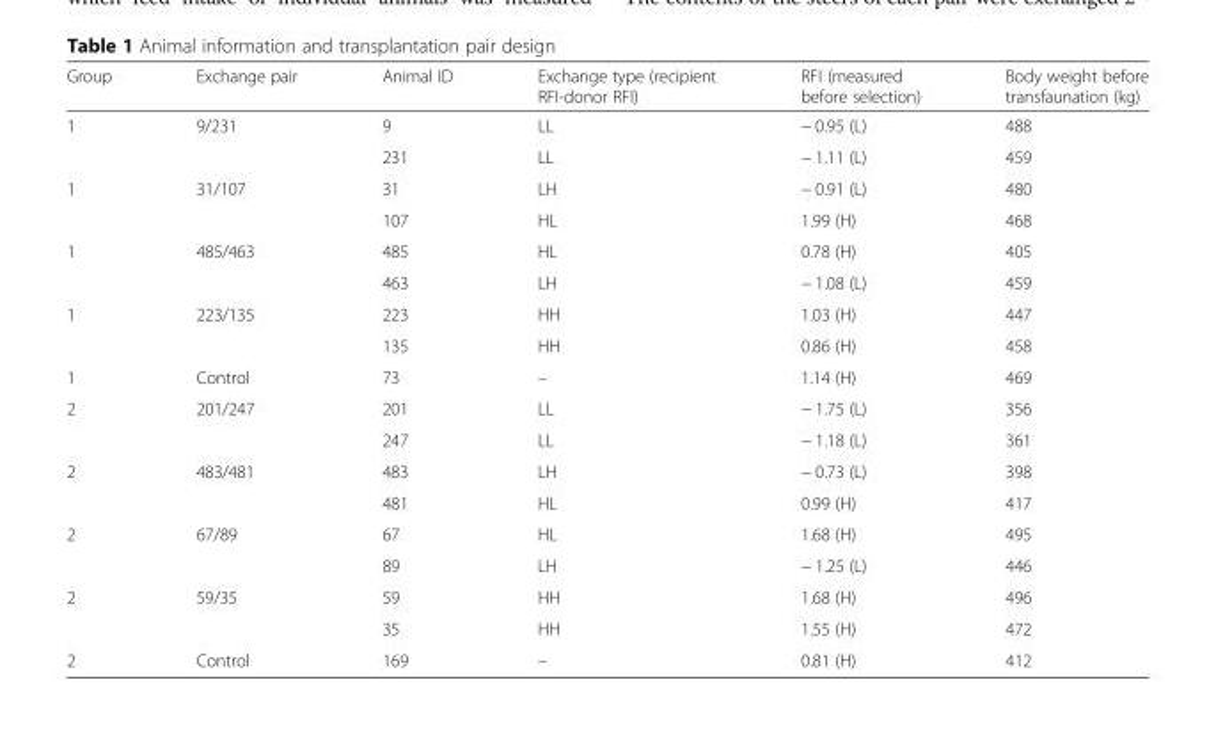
<table><thead><tr><td>Group</td><td>Exchange pair</td><td>Animal ID</td><td>Exchange type (recipient RFI-donor RFI)</td><td>RFI (measured before selection)</td><td>Body weight before transfaunation (kg)</td></tr></thead><tbody><tr><td rowspan="2">1</td><td>9/231</td><td>9</td><td>LL</td><td>− 0.95 (L)</td><td>488</td></tr><tr><td></td><td>231</td><td>LL</td><td>− 1.11 (L)</td><td>459</td></tr><tr><td rowspan="2">1</td><td>31/107</td><td>31</td><td>LH</td><td>− 0.91 (L)</td><td>480</td></tr><tr><td></td><td>107</td><td>HL</td><td>1.99 (H)</td><td>468</td></tr><tr><td rowspan="2">1</td><td>485/463</td><td>485</td><td>HL</td><td>0.78 (H)</td><td>405</td></tr><tr><td></td><td>463</td><td>LH</td><td>− 1.08 (L)</td><td>459</td></tr><tr><td rowspan="2">1</td><td>223/135</td><td>223</td><td>HH</td><td>1.03 (H)</td><td>447</td></tr><tr><td></td><td>135</td><td>HH</td><td>0.86 (H)</td><td>458</td></tr><tr><td>1</td><td>Control</td><td>73</td><td>–</td><td>1.14 (H)</td><td>469</td></tr><tr><td rowspan="2">2</td><td>201/247</td><td>201</td><td>LL</td><td>− 1.75 (L)</td><td>356</td></tr><tr><td></td><td>247</td><td>LL</td><td>− 1.18 (L)</td><td>361</td></tr><tr><td rowspan="2">2</td><td>483/481</td><td>483</td><td>LH</td><td>− 0.73 (L)</td><td>398</td></tr><tr><td></td><td>481</td><td>HL</td><td>0.99 (H)</td><td>417</td></tr><tr><td rowspan="2">2</td><td>67/89</td><td>67</td><td>HL</td><td>1.68 (H)</td><td>495</td></tr><tr><td></td><td>89</td><td>LH</td><td>− 1.25 (L)</td><td>446</td></tr><tr><td rowspan="2">2</td><td>59/35</td><td>59</td><td>HH</td><td>1.68 (H)</td><td>496</td></tr><tr><td></td><td>35</td><td>HH</td><td>1.55 (H)</td><td>472</td></tr><tr><td>2</td><td>Control</td><td>169</td><td>–</td><td>0.81 (H)</td><td>412</td></tr></tbody></table>